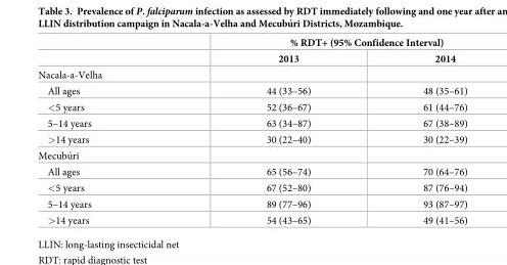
<table><thead><tr><td rowspan="2"></td><td colspan="2">% RDT+ (95% Confidence Interval)</td></tr><tr><td>2013</td><td>2014</td></tr></thead><tbody><tr><td colspan="3">Nacala-a-Velha</td></tr><tr><td>All ages</td><td>44 (33–56)</td><td>48 (35–61)</td></tr><tr><td>&lt;5 years</td><td>52 (36–67)</td><td>61 (44–76)</td></tr><tr><td>5–14 years</td><td>63 (34–87)</td><td>67 (38–89)</td></tr><tr><td>&gt;14 years</td><td>30 (22–40)</td><td>30 (22–39)</td></tr><tr><td colspan="3">Mecubu´ri</td></tr><tr><td>All ages</td><td>65 (56–74)</td><td>70 (64–76)</td></tr><tr><td>&lt;5 years</td><td>67 (52–80)</td><td>87 (76–94)</td></tr><tr><td>5–14 years</td><td>89 (77–96)</td><td>93 (87–97)</td></tr><tr><td>&gt;14 years</td><td>54 (43–65)</td><td>49 (41–56)</td></tr></tbody></table>